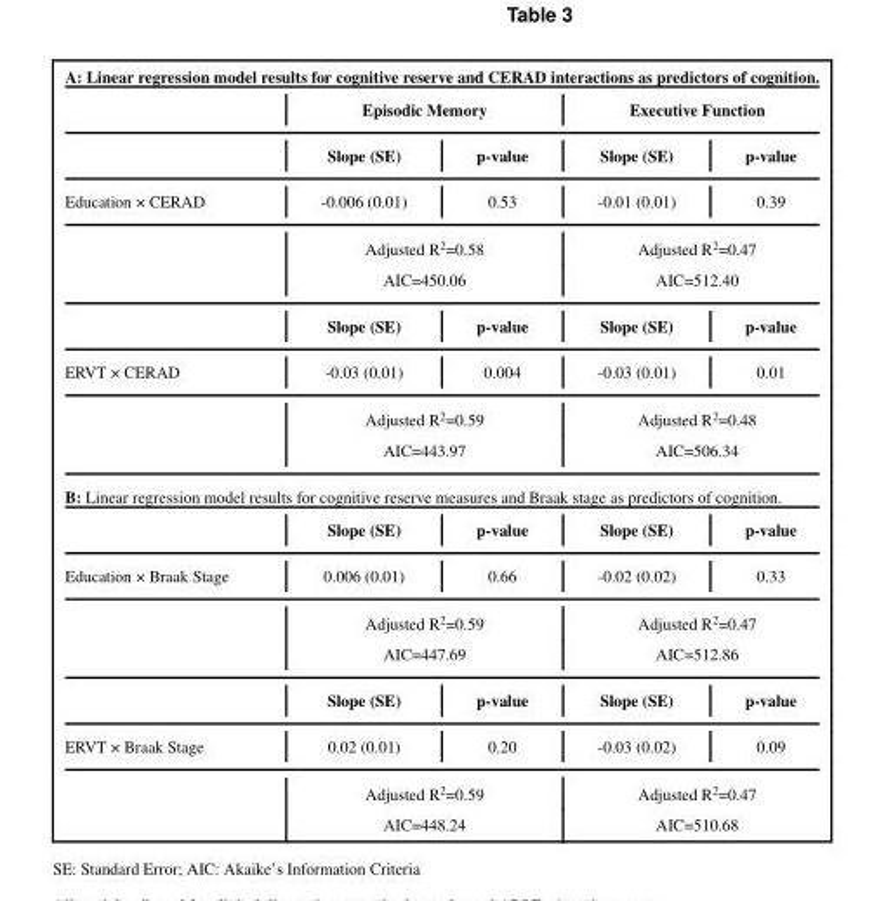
<table><thead><tr><td colspan="5">A: Linear regression model results for cognitive reserve and CERAD interactions as predictors of cognition.</td></tr><tr><td rowspan="2"></td><td colspan="2">Episodic Memory</td><td colspan="2">Executive Function</td></tr><tr><td>Slope (SE)</td><td>p-value</td><td>Slope (SE)</td><td>p-value</td></tr></thead><tbody><tr><td rowspan="4">Education × CERAD</td><td>-0.006 (0.01)</td><td>0.53</td><td>-0.01 (0.01)</td><td>0.39</td></tr><tr><td colspan="2">Adjusted R<sup>2</sup>=0.58</td><td colspan="2">Adjusted R<sup>2</sup>=0.47</td></tr><tr><td colspan="2">AIC=450.06</td><td colspan="2">AIC=512.40</td></tr><tr><td>Slope (SE)</td><td>p-value</td><td>Slope (SE)</td><td>p-value</td></tr><tr><td rowspan="3">ERVT × CERAD</td><td>-0.03 (0.01)</td><td>0.004</td><td>-0.03 (0.01)</td><td>0.01</td></tr><tr><td colspan="2">Adjusted R<sup>2</sup>=0.59</td><td colspan="2">Adjusted R<sup>2</sup>=0.48</td></tr><tr><td colspan="2">AIC=443.97</td><td colspan="2">AIC=506.34</td></tr><tr><td colspan="5">B: Linear regression model results for cognitive reserve measures and Braak stage as predictors of cognition.</td></tr><tr><td></td><td>Slope (SE)</td><td>p-value</td><td>Slope (SE)</td><td>p-value</td></tr><tr><td rowspan="4">Education × Braak Stage</td><td>0.006 (0.01)</td><td>0.66</td><td>-0.02 (0.02)</td><td>0.33</td></tr><tr><td colspan="2">Adjusted R<sup>2</sup>=0.59</td><td colspan="2">Adjusted R<sup>2</sup>=0.47</td></tr><tr><td colspan="2">AIC=447.69</td><td colspan="2">AIC=512.86</td></tr><tr><td>Slope (SE)</td><td>p-value</td><td>Slope (SE)</td><td>p-value</td></tr><tr><td rowspan="3">ERVT × Braak Stage</td><td>0.02 (0.01)</td><td>0.20</td><td>-0.03 (0.02)</td><td>0.09</td></tr><tr><td colspan="2">Adjusted R<sup>2</sup>=0.59</td><td colspan="2">Adjusted R<sup>2</sup>=0.47</td></tr><tr><td colspan="2">AIC=448.24</td><td colspan="2">AIC=510.68</td></tr></tbody></table>